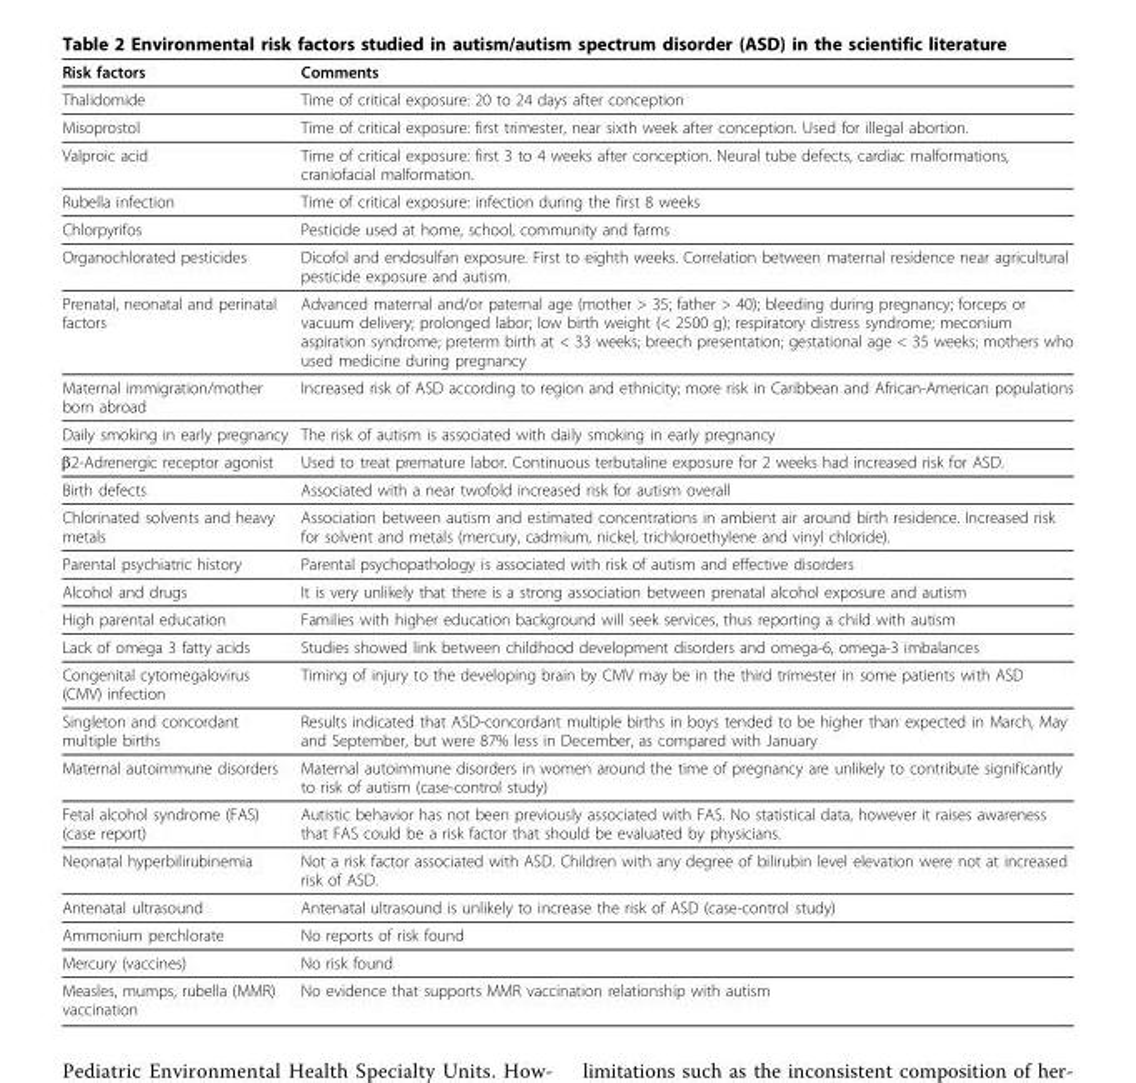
<table><thead><tr><td>Risk factors</td><td>Comments</td></tr></thead><tbody><tr><td>Thalidomide</td><td>Time of critical exposure: 20 to 24 days after conception</td></tr><tr><td>Misoprostol</td><td>Time of critical exposure: first trimester, near sixth week after conception. Used for illegal abortion.</td></tr><tr><td>Valproic acid</td><td>Time of critical exposure: first 3 to 4 weeks after conception. Neural tube defects, cardiac malformations, craniofacial malformation.</td></tr><tr><td>Rubella infection</td><td>Time of critical exposure: infection during the first 8 weeks</td></tr><tr><td>Chlorpyrifos</td><td>Pesticide used at home, school, community and farms</td></tr><tr><td>Organochlorated pesticides</td><td>Dicofol and endosulfan exposure. First to eighth weeks. Correlation between maternal residence near agricultural pesticide exposure and autism.</td></tr><tr><td>Prenatal, neonatal and perinatal factors</td><td>Advanced maternal and/or paternal age (mother &gt; 35; father &gt; 40); bleeding during pregnancy; forceps or vacuum delivery; prolonged labor; low birth weight (&lt; 2500 g); respiratory distress syndrome; meconium aspiration syndrome; preterm birth at &lt; 33 weeks; breech presentation; gestational age &lt; 35 weeks; mothers who used medicine during pregnancy</td></tr><tr><td>Maternal immigration/mother born abroad</td><td>Increased risk of ASD according to region and ethnicity; more risk in Caribbean and African-American populations</td></tr><tr><td>Daily smoking in early pregnancy</td><td>The risk of autism is associated with daily smoking in early pregnancy</td></tr><tr><td>β2-Adrenergic receptor agonist</td><td>Used to treat premature labor. Continuous terbutaline exposure for 2 weeks had increased risk for ASD.</td></tr><tr><td>Birth defects</td><td>Associated with a near twofold increased risk for autism overall</td></tr><tr><td>Chlorinated solvents and heavy metals</td><td>Association between autism and estimated concentrations in ambient air around birth residence. Increased risk for solvent and metals (mercury, cadmium, nickel, trichloroethylene and vinyl chloride).</td></tr><tr><td>Parental psychiatric history</td><td>Parental psychopathology is associated with risk of autism and effective disorders</td></tr><tr><td>Alcohol and drugs</td><td>It is very unlikely that there is a strong association between prenatal alcohol exposure and autism</td></tr><tr><td>High parental education</td><td>Families with higher education background will seek services, thus reporting a child with autism</td></tr><tr><td>Lack of omega 3 fatty acids</td><td>Studies showed link between childhood development disorders and omega-6, omega-3 imbalances</td></tr><tr><td>Congenital cytomegalovirus (CMV) infection</td><td>Timing of injury to the developing brain by CMV may be in the third trimester in some patients with ASD</td></tr><tr><td>Singleton and concordant multiple births</td><td>Results indicated that ASD-concordant multiple births in boys tended to be higher than expected in March, May and September, but were 87% less in December, as compared with January</td></tr><tr><td>Maternal autoimmune disorders</td><td>Maternal autoimmune disorders in women around the time of pregnancy are unlikely to contribute significantly to risk of autism (case-control study)</td></tr><tr><td>Fetal alcohol syndrome (FAS) (case report)</td><td>Autistic behavior has not been previously associated with FAS. No statistical data, however it raises awareness that FAS could be a risk factor that should be evaluated by physicians.</td></tr><tr><td>Neonatal hyperbilirubinemia</td><td>Not a risk factor associated with ASD. Children with any degree of bilirubin level elevation were not at increased risk of ASD.</td></tr><tr><td>Antenatal ultrasound</td><td>Antenatal ultrasound is unlikely to increase the risk of ASD (case-control study)</td></tr><tr><td>Ammonium perchlorate</td><td>No reports of risk found</td></tr><tr><td>Mercury (vaccines)</td><td>No risk found</td></tr><tr><td>Measles, mumps, rubella (MMR) vaccination</td><td>No evidence that supports MMR vaccination relationship with autism</td></tr></tbody></table>